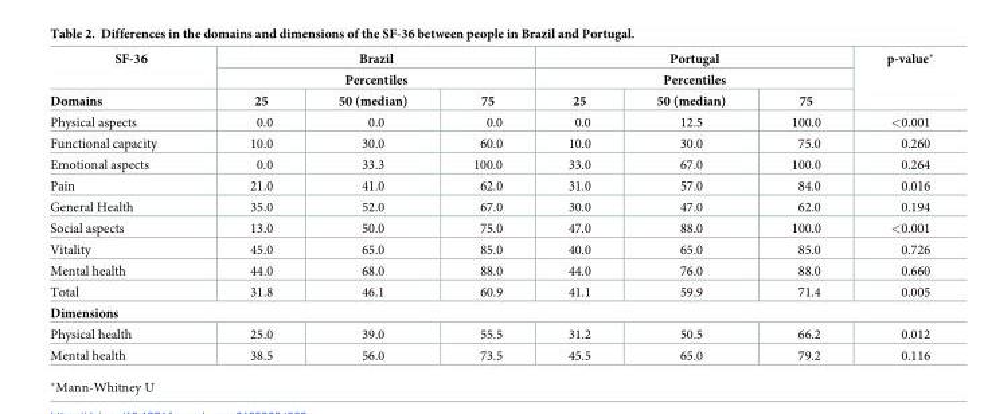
<table><thead><tr><td rowspan="3">SF-36 Domains</td><td rowspan="2" colspan="3">Brazil Percentiles</td><td rowspan="2" colspan="3">Portugal Percentiles</td><td rowspan="3">p-value*</td></tr><tr></tr><tr><td>25</td><td>50 (median)</td><td>75</td><td>25</td><td>50 (median)</td><td>75</td></tr></thead><tbody><tr><td>Physical aspects</td><td>0.0</td><td>0.0</td><td>0.0</td><td>0.0</td><td>12.5</td><td>100.0</td><td>&lt;0.001</td></tr><tr><td>Functional capacity</td><td>10.0</td><td>30.0</td><td>60.0</td><td>10.0</td><td>30.0</td><td>75.0</td><td>0.260</td></tr><tr><td>Emotional aspects</td><td>0.0</td><td>33.3</td><td>100.0</td><td>33.0</td><td>67.0</td><td>100.0</td><td>0.264</td></tr><tr><td>Pain</td><td>21.0</td><td>41.0</td><td>62.0</td><td>31.0</td><td>57.0</td><td>84.0</td><td>0.016</td></tr><tr><td>General Health</td><td>35.0</td><td>52.0</td><td>67.0</td><td>30.0</td><td>47.0</td><td>62.0</td><td>0.194</td></tr><tr><td>Social aspects</td><td>13.0</td><td>50.0</td><td>75.0</td><td>47.0</td><td>88.0</td><td>100.0</td><td>&lt;0.001</td></tr><tr><td>Vitality</td><td>45.0</td><td>65.0</td><td>85.0</td><td>40.0</td><td>65.0</td><td>85.0</td><td>0.726</td></tr><tr><td>Mental health</td><td>44.0</td><td>68.0</td><td>88.0</td><td>44.0</td><td>76.0</td><td>88.0</td><td>0.660</td></tr><tr><td>Total</td><td>31.8</td><td>46.1</td><td>60.9</td><td>41.1</td><td>59.9</td><td>71.4</td><td>0.005</td></tr><tr><td colspan="8">Dimensions</td></tr><tr><td>Physical health</td><td>25.0</td><td>39.0</td><td>55.5</td><td>31.2</td><td>50.5</td><td>66.2</td><td>0.012</td></tr><tr><td>Mental health</td><td>38.5</td><td>56.0</td><td>73.5</td><td>45.5</td><td>65.0</td><td>79.2</td><td>0.116</td></tr></tbody></table>